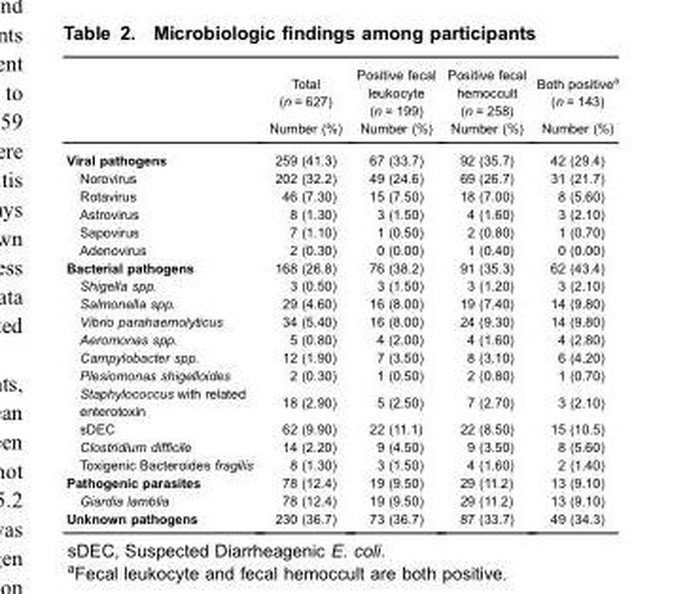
<table><thead><tr><td rowspan="2"></td><td rowspan="2">Total (n = 627) Number (%)</td><td rowspan="2">Positive fecal leukocyte (n = 199) Number (%)</td><td rowspan="2">Positive fecal hemoccult (n = 258) Number (%)</td><td rowspan="2">Both positive<sup>a</sup> (n = 143) Number (%)</td></tr><tr></tr></thead><tbody><tr><td>Viral pathogens</td><td>259 (41.3)</td><td>67 (33.7)</td><td>92 (35.7)</td><td>42 (29.4)</td></tr><tr><td>Norovirus</td><td>202 (32.2)</td><td>49 (24.6)</td><td>69 (26.7)</td><td>31 (21.7)</td></tr><tr><td>Rotavirus</td><td>46 (7.30)</td><td>15 (7.50)</td><td>18 (7.00)</td><td>8 (5.60)</td></tr><tr><td>Astrovirus</td><td>8 (1.30)</td><td>3 (1.50)</td><td>4 (1.60)</td><td>3 (2.10)</td></tr><tr><td>Sapovirus</td><td>7 (1.10)</td><td>1 (0.50)</td><td>2 (0.80)</td><td>1 (0.70)</td></tr><tr><td>Adenovirus</td><td>2 (0.30)</td><td>0 (0.00)</td><td>1 (0.40)</td><td>0 (0.00)</td></tr><tr><td>Bacterial pathogens</td><td>168 (26.8)</td><td>76 (38.2)</td><td>91 (35.3)</td><td>62 (43.4)</td></tr><tr><td>Shigella spp.</td><td>3 (0.50)</td><td>3 (1.50)</td><td>3 (1.20)</td><td>3 (2.10)</td></tr><tr><td>Salmonella spp.</td><td>29 (4.60)</td><td>16 (8.00)</td><td>19 (7.40)</td><td>14 (9.80)</td></tr><tr><td>Vibrio parahaemolyticus</td><td>34 (5.40)</td><td>16 (8.00)</td><td>24 (9.30)</td><td>14 (9.80)</td></tr><tr><td>Aeromonas spp.</td><td>5 (0.80)</td><td>4 (2.00)</td><td>4 (1.60)</td><td>4 (2.80)</td></tr><tr><td>Campylobacter spp.</td><td>12 (1.90)</td><td>7 (3.50)</td><td>8 (3.10)</td><td>6 (4.20)</td></tr><tr><td>Plesiomonas shigelloides</td><td>2 (0.30)</td><td>1 (0.50)</td><td>2 (0.80)</td><td>1 (0.70)</td></tr><tr><td>Staphylococcus with related enterotoxin</td><td>18 (2.90)</td><td>5 (2.50)</td><td>7 (2.70)</td><td>3 (2.10)</td></tr><tr><td>sDEC</td><td>62 (9.90)</td><td>22 (11.1)</td><td>22 (8.50)</td><td>15 (10.5)</td></tr><tr><td>Clostridium difficile</td><td>14 (2.20)</td><td>9 (4.50)</td><td>9 (3.50)</td><td>8 (5.60)</td></tr><tr><td>Toxigenic Bacteroides fragilis</td><td>8 (1.30)</td><td>3 (1.50)</td><td>4 (1.60)</td><td>2 (1.40)</td></tr><tr><td>Pathogenic parasites</td><td>78 (12.4)</td><td>19 (9.50)</td><td>29 (11.2)</td><td>13 (9.10)</td></tr><tr><td>Giardia lamblia</td><td>78 (12.4)</td><td>19 (9.50)</td><td>29 (11.2)</td><td>13 (9.10)</td></tr><tr><td>Unknown pathogens</td><td>230 (36.7)</td><td>73 (36.7)</td><td>87 (33.7)</td><td>49 (34.3)</td></tr></tbody></table>